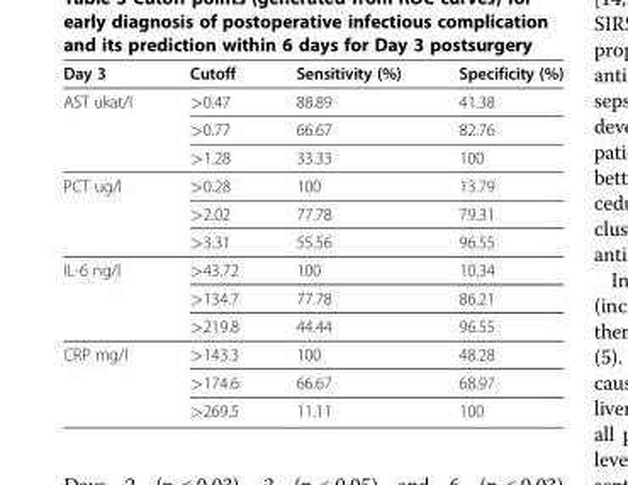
<table><thead><tr><td>Day 3</td><td>Cutoff</td><td>Sensitivity (%)</td><td>Specificity (%)</td></tr></thead><tbody><tr><td rowspan="3">AST ukat/l</td><td>&gt;0.47</td><td>88.89</td><td>41.38</td></tr><tr><td>&gt;0.77</td><td>66.67</td><td>82.76</td></tr><tr><td>&gt;1.28</td><td>33.33</td><td>100</td></tr><tr><td rowspan="3">PCT ug/l</td><td>&gt;0.28</td><td>100</td><td>13.79</td></tr><tr><td>&gt;2.02</td><td>77.78</td><td>79.31</td></tr><tr><td>&gt;3.31</td><td>55.56</td><td>96.55</td></tr><tr><td rowspan="3">IL-6 ng/l</td><td>&gt;43.72</td><td>100</td><td>10.34</td></tr><tr><td>&gt;134.7</td><td>77.78</td><td>86.21</td></tr><tr><td>&gt;219.8</td><td>44.44</td><td>96.55</td></tr><tr><td rowspan="3">CRP mg/l</td><td>&gt;143.3</td><td>100</td><td>48.28</td></tr><tr><td>&gt;174.6</td><td>66.67</td><td>68.97</td></tr><tr><td>&gt;269.5</td><td>11.11</td><td>100</td></tr></tbody></table>